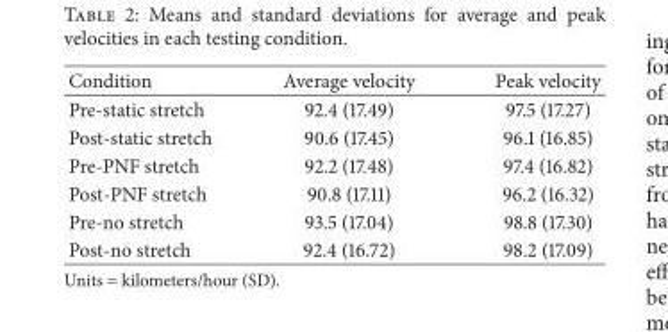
<table><thead><tr><td>Condition</td><td>Average velocity</td><td>Peak velocity</td></tr></thead><tbody><tr><td>Pre-static stretch</td><td>92.4 (17.49)</td><td>97.5 (17.27)</td></tr><tr><td>Post-static stretch</td><td>90.6 (17.45)</td><td>96.1 (16.85)</td></tr><tr><td>Pre-PNF stretch</td><td>92.2 (17.48)</td><td>97.4 (16.82)</td></tr><tr><td>Post-PNF stretch</td><td>90.8 (17.11)</td><td>96.2 (16.32)</td></tr><tr><td>Pre-no stretch</td><td>93.5 (17.04)</td><td>98.8 (17.30)</td></tr><tr><td>Post-no stretch</td><td>92.4 (16.72)</td><td>98.2 (17.09)</td></tr></tbody></table>